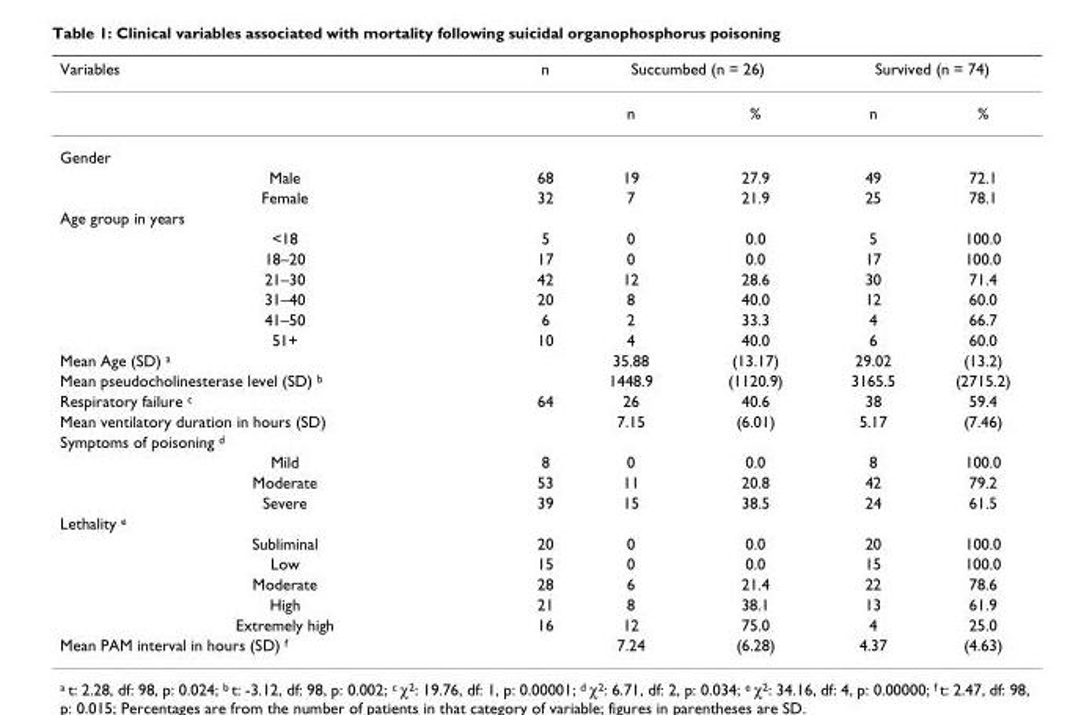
<table><thead><tr><td rowspan="2">Variables</td><td rowspan="2">n</td><td colspan="2">Succumbed (n = 26)</td><td colspan="2">Survived (n = 74)</td></tr><tr><td>n</td><td>%</td><td>n</td><td>%</td></tr></thead><tbody><tr><td colspan="6">Gender</td></tr><tr><td>Male</td><td>68</td><td>19</td><td>27.9</td><td>49</td><td>72.1</td></tr><tr><td>Female</td><td>32</td><td>7</td><td>21.9</td><td>25</td><td>78.1</td></tr><tr><td colspan="6">Age group in years</td></tr><tr><td>&lt;18</td><td>5</td><td>0</td><td>0.0</td><td>5</td><td>100.0</td></tr><tr><td>18–20</td><td>17</td><td>0</td><td>0.0</td><td>17</td><td>100.0</td></tr><tr><td>21–30</td><td>42</td><td>12</td><td>28.6</td><td>30</td><td>71.4</td></tr><tr><td>31–40</td><td>20</td><td>8</td><td>40.0</td><td>12</td><td>60.0</td></tr><tr><td>41–50</td><td>6</td><td>2</td><td>33.3</td><td>4</td><td>66.7</td></tr><tr><td>51+</td><td>10</td><td>4</td><td>40.0</td><td>6</td><td>60.0</td></tr><tr><td>Mean Age (SD) <sup>a</sup></td><td></td><td>35.88</td><td>(13.17)</td><td>29.02</td><td>(13.2)</td></tr><tr><td>Mean pseudocholinesterase level (SD) <sup>b</sup></td><td></td><td>1448.9</td><td>(1120.9)</td><td>3165.5</td><td>(2715.2)</td></tr><tr><td>Respiratory failure <sup>c</sup></td><td>64</td><td>26</td><td>40.6</td><td>38</td><td>59.4</td></tr><tr><td>Mean ventilatory duration in hours (SD)</td><td></td><td>7.15</td><td>(6.01)</td><td>5.17</td><td>(7.46)</td></tr><tr><td colspan="6">Symptoms of poisoning <sup>d</sup></td></tr><tr><td>Mild</td><td>8</td><td>0</td><td>0.0</td><td>8</td><td>100.0</td></tr><tr><td>Moderate</td><td>53</td><td>11</td><td>20.8</td><td>42</td><td>79.2</td></tr><tr><td>Severe</td><td>39</td><td>15</td><td>38.5</td><td>24</td><td>61.5</td></tr><tr><td colspan="6">Lethality <sup>e</sup></td></tr><tr><td>Subliminal</td><td>20</td><td>0</td><td>0.0</td><td>20</td><td>100.0</td></tr><tr><td>Low</td><td>15</td><td>0</td><td>0.0</td><td>15</td><td>100.0</td></tr><tr><td>Moderate</td><td>28</td><td>6</td><td>21.4</td><td>22</td><td>78.6</td></tr><tr><td>High</td><td>21</td><td>8</td><td>38.1</td><td>13</td><td>61.9</td></tr><tr><td>Extremely high</td><td>16</td><td>12</td><td>75.0</td><td>4</td><td>25.0</td></tr><tr><td>Mean PAM interval in hours (SD) <sup>f</sup></td><td></td><td>7.24</td><td>(6.28)</td><td>4.37</td><td>(4.63)</td></tr></tbody></table>